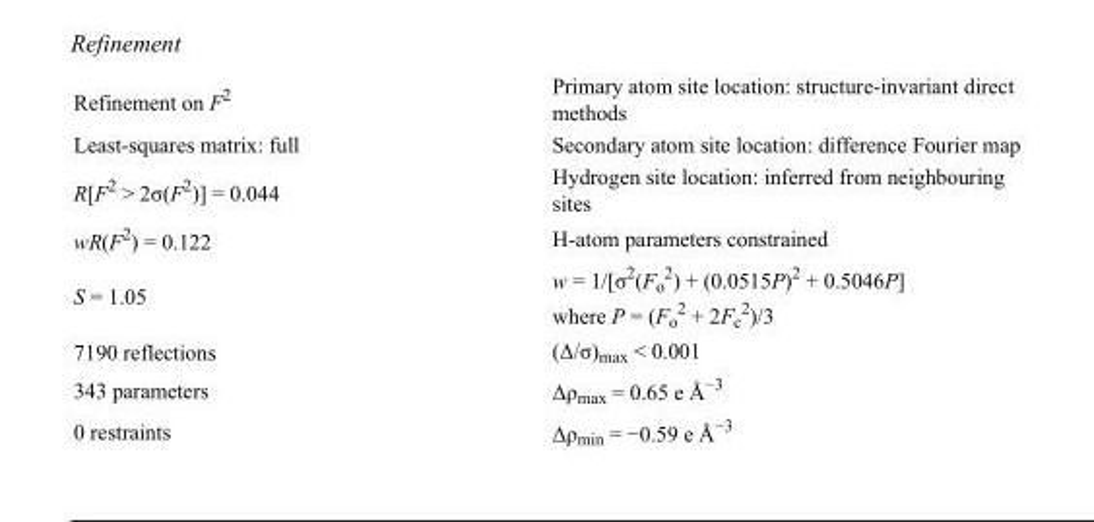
<table><tbody><tr><td>Refinement on F<sup>2</sup></td><td>Primary atom site location: structure-invariant direct methods</td></tr><tr><td>Least-squares matrix: full</td><td>Secondary atom site location: difference Fourier map</td></tr><tr><td>R[F<sup>2</sup> &gt; 2σ(F<sup>2</sup>)] = 0.044</td><td>Hydrogen site location: inferred from neighbouring sites</td></tr><tr><td>wR(F<sup>2</sup>) = 0.122</td><td>H-atom parameters constrained</td></tr><tr><td>S = 1.05</td><td>w = 1/[σ<sup>2</sup>(F<sub>o</sub> <sup>2</sup>) + (0.0515P)<sup>2</sup> + 0.5046P] where P = (F<sub>o</sub> <sup>2</sup> + 2F<sub>c</sub> <sup>2</sup>)/3</td></tr><tr><td>7190 reflections</td><td>(Δ/σ)<sub>max</sub> &lt; 0.001</td></tr><tr><td>343 parameters</td><td>Δρ<sub>max</sub> = 0.65 e Å<sup>−3</sup></td></tr><tr><td>0 restraints</td><td>Δρ<sub>min</sub> = −0.59 e Å<sup>−3</sup></td></tr></tbody></table>